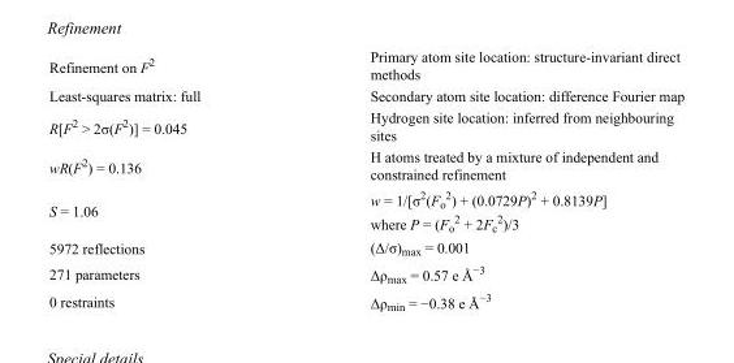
<table><tbody><tr><td>Refinement on F<sup>2</sup></td><td>Primary atom site location: structure-invariant direct methods</td></tr><tr><td>Least-squares matrix: full</td><td>Secondary atom site location: difference Fourier map</td></tr><tr><td>R[F<sup>2</sup> &gt; 2σ(F<sup>2</sup>)] = 0.045</td><td>Hydrogen site location: inferred from neighbouring sites</td></tr><tr><td>wR(F<sup>2</sup>) = 0.136</td><td>H atoms treated by a mixture of independent and constrained refinement</td></tr><tr><td>S = 1.06</td><td>w = 1/[σ<sup>2</sup>(F<sub>o</sub> <sup>2</sup>) + (0.0729P)<sup>2</sup> + 0.8139P] where P = (F<sub>o</sub> <sup>2</sup> + 2F<sub>c</sub> <sup>2</sup>)/3</td></tr><tr><td>5972 reflections</td><td>(Δ/σ)<sub>max</sub> = 0.001</td></tr><tr><td>271 parameters</td><td>Δρ<sub>max</sub> = 0.57 e Å<sup>−3</sup></td></tr><tr><td>0 restraints</td><td>Δρ<sub>min</sub> = −0.38 e Å<sup>−3</sup></td></tr></tbody></table>